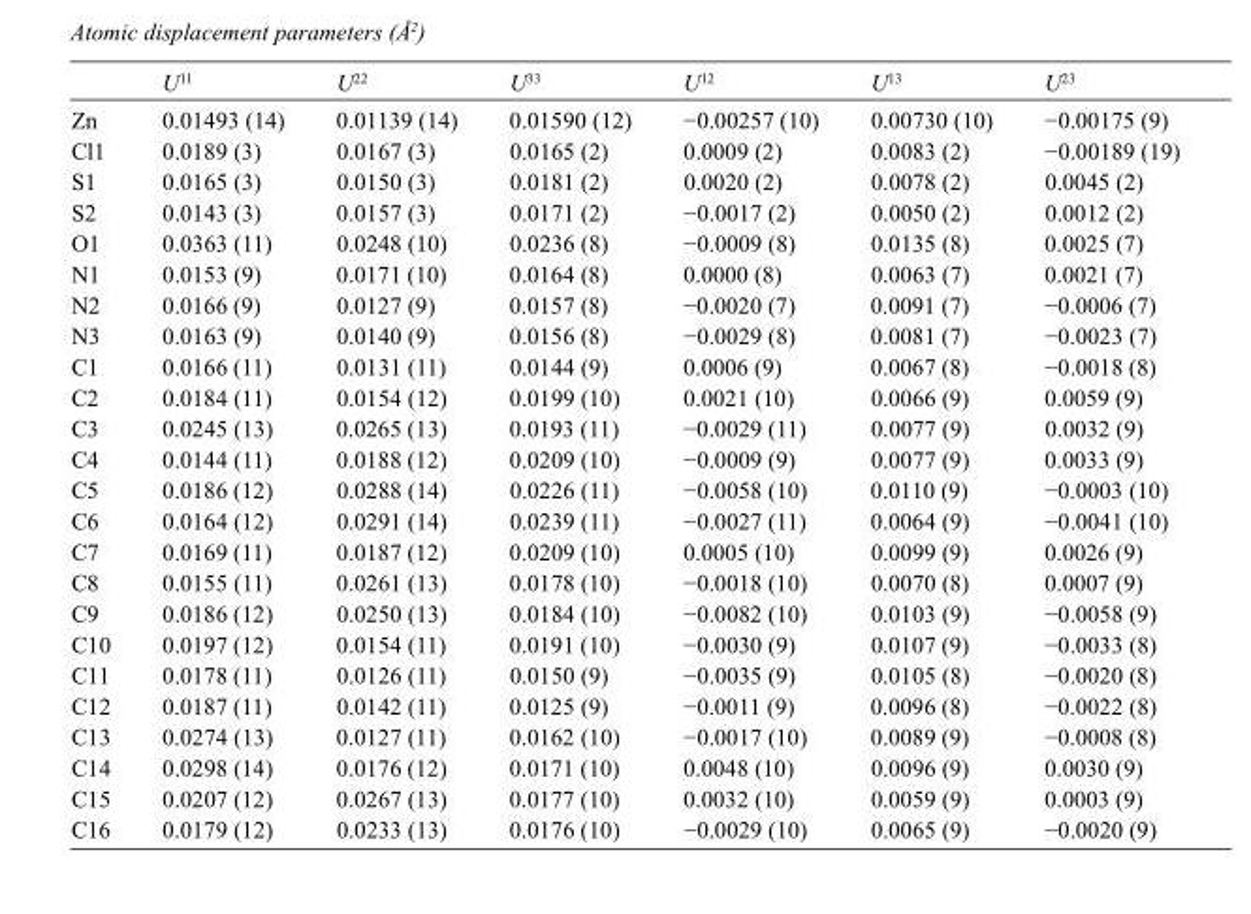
<table><thead><tr><td></td><td>U<sup>11</sup></td><td>U<sup>22</sup></td><td>U<sup>33</sup></td><td>U<sup>12</sup></td><td>U<sup>13</sup></td><td>U<sup>23</sup></td></tr></thead><tbody><tr><td>Zn</td><td>0.01493 (14)</td><td>0.01139 (14)</td><td>0.01590 (12)</td><td>−0.00257 (10)</td><td>0.00730 (10)</td><td>−0.00175 (9)</td></tr><tr><td>Cl1</td><td>0.0189 (3)</td><td>0.0167 (3)</td><td>0.0165 (2)</td><td>0.0009 (2)</td><td>0.0083 (2)</td><td>−0.00189 (19)</td></tr><tr><td>S1</td><td>0.0165 (3)</td><td>0.0150 (3)</td><td>0.0181 (2)</td><td>0.0020 (2)</td><td>0.0078 (2)</td><td>0.0045 (2)</td></tr><tr><td>S2</td><td>0.0143 (3)</td><td>0.0157 (3)</td><td>0.0171 (2)</td><td>−0.0017 (2)</td><td>0.0050 (2)</td><td>0.0012 (2)</td></tr><tr><td>O1</td><td>0.0363 (11)</td><td>0.0248 (10)</td><td>0.0236 (8)</td><td>−0.0009 (8)</td><td>0.0135 (8)</td><td>0.0025 (7)</td></tr><tr><td>N1</td><td>0.0153 (9)</td><td>0.0171 (10)</td><td>0.0164 (8)</td><td>0.0000 (8)</td><td>0.0063 (7)</td><td>0.0021 (7)</td></tr><tr><td>N2</td><td>0.0166 (9)</td><td>0.0127 (9)</td><td>0.0157 (8)</td><td>−0.0020 (7)</td><td>0.0091 (7)</td><td>−0.0006 (7)</td></tr><tr><td>N3</td><td>0.0163 (9)</td><td>0.0140 (9)</td><td>0.0156 (8)</td><td>−0.0029 (8)</td><td>0.0081 (7)</td><td>−0.0023 (7)</td></tr><tr><td>C1</td><td>0.0166 (11)</td><td>0.0131 (11)</td><td>0.0144 (9)</td><td>0.0006 (9)</td><td>0.0067 (8)</td><td>−0.0018 (8)</td></tr><tr><td>C2</td><td>0.0184 (11)</td><td>0.0154 (12)</td><td>0.0199 (10)</td><td>0.0021 (10)</td><td>0.0066 (9)</td><td>0.0059 (9)</td></tr><tr><td>C3</td><td>0.0245 (13)</td><td>0.0265 (13)</td><td>0.0193 (11)</td><td>−0.0029 (11)</td><td>0.0077 (9)</td><td>0.0032 (9)</td></tr><tr><td>C4</td><td>0.0144 (11)</td><td>0.0188 (12)</td><td>0.0209 (10)</td><td>−0.0009 (9)</td><td>0.0077 (9)</td><td>0.0033 (9)</td></tr><tr><td>C5</td><td>0.0186 (12)</td><td>0.0288 (14)</td><td>0.0226 (11)</td><td>−0.0058 (10)</td><td>0.0110 (9)</td><td>−0.0003 (10)</td></tr><tr><td>C6</td><td>0.0164 (12)</td><td>0.0291 (14)</td><td>0.0239 (11)</td><td>−0.0027 (11)</td><td>0.0064 (9)</td><td>−0.0041 (10)</td></tr><tr><td>C7</td><td>0.0169 (11)</td><td>0.0187 (12)</td><td>0.0209 (10)</td><td>0.0005 (10)</td><td>0.0099 (9)</td><td>0.0026 (9)</td></tr><tr><td>C8</td><td>0.0155 (11)</td><td>0.0261 (13)</td><td>0.0178 (10)</td><td>−0.0018 (10)</td><td>0.0070 (8)</td><td>0.0007 (9)</td></tr><tr><td>C9</td><td>0.0186 (12)</td><td>0.0250 (13)</td><td>0.0184 (10)</td><td>−0.0082 (10)</td><td>0.0103 (9)</td><td>−0.0058 (9)</td></tr><tr><td>C10</td><td>0.0197 (12)</td><td>0.0154 (11)</td><td>0.0191 (10)</td><td>−0.0030 (9)</td><td>0.0107 (9)</td><td>−0.0033 (8)</td></tr><tr><td>C11</td><td>0.0178 (11)</td><td>0.0126 (11)</td><td>0.0150 (9)</td><td>−0.0035 (9)</td><td>0.0105 (8)</td><td>−0.0020 (8)</td></tr><tr><td>C12</td><td>0.0187 (11)</td><td>0.0142 (11)</td><td>0.0125 (9)</td><td>−0.0011 (9)</td><td>0.0096 (8)</td><td>−0.0022 (8)</td></tr><tr><td>C13</td><td>0.0274 (13)</td><td>0.0127 (11)</td><td>0.0162 (10)</td><td>−0.0017 (10)</td><td>0.0089 (9)</td><td>−0.0008 (8)</td></tr><tr><td>C14</td><td>0.0298 (14)</td><td>0.0176 (12)</td><td>0.0171 (10)</td><td>0.0048 (10)</td><td>0.0096 (9)</td><td>0.0030 (9)</td></tr><tr><td>C15</td><td>0.0207 (12)</td><td>0.0267 (13)</td><td>0.0177 (10)</td><td>0.0032 (10)</td><td>0.0059 (9)</td><td>0.0003 (9)</td></tr><tr><td>C16</td><td>0.0179 (12)</td><td>0.0233 (13)</td><td>0.0176 (10)</td><td>−0.0029 (10)</td><td>0.0065 (9)</td><td>−0.0020 (9)</td></tr></tbody></table>